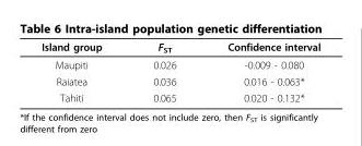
<table><thead><tr><td>Island group</td><td>F<sub>ST</sub></td><td>Confidence interval</td></tr></thead><tbody><tr><td>Maupiti</td><td>0.026</td><td>-0.009 - 0.080</td></tr><tr><td>Raiatea</td><td>0.036</td><td>0.016 - 0.063*</td></tr><tr><td>Tahiti</td><td>0.065</td><td>0.020 - 0.132*</td></tr></tbody></table>